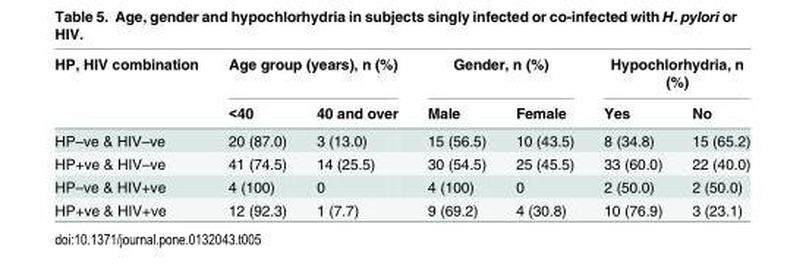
<table><thead><tr><td rowspan="2">HP, HIV combination</td><td colspan="2">Age group (years), n (%)</td><td colspan="2">Gender, n (%)</td><td colspan="2">Hypochlorhydria, n (%)</td></tr><tr><td>&lt;40</td><td>40 and over</td><td>Male</td><td>Female</td><td>Yes</td><td>No</td></tr></thead><tbody><tr><td>HP–ve &amp; HIV–ve</td><td>20 (87.0)</td><td>3 (13.0)</td><td>15 (56.5)</td><td>10 (43.5)</td><td>8 (34.8)</td><td>15 (65.2)</td></tr><tr><td>HP+ve &amp; HIV–ve</td><td>41 (74.5)</td><td>14 (25.5)</td><td>30 (54.5)</td><td>25 (45.5)</td><td>33 (60.0)</td><td>22 (40.0)</td></tr><tr><td>HP–ve &amp; HIV+ve</td><td>4 (100)</td><td>0</td><td>4 (100)</td><td>0</td><td>2 (50.0)</td><td>2 (50.0)</td></tr><tr><td>HP+ve &amp; HIV+ve</td><td>12 (92.3)</td><td>1 (7.7)</td><td>9 (69.2)</td><td>4 (30.8)</td><td>10 (76.9)</td><td>3 (23.1)</td></tr></tbody></table>